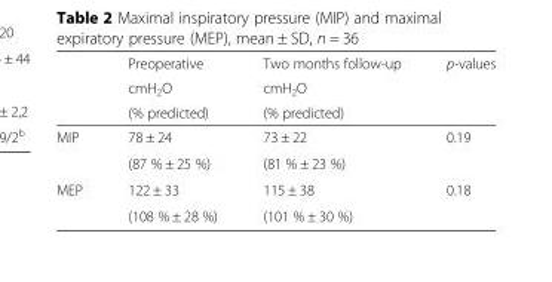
<table><thead><tr><td rowspan="3"></td><td rowspan="3">Preoperative cmH<sub>2</sub>O (% predicted)</td><td rowspan="3">Two months follow-up cmH<sub>2</sub>O (% predicted)</td><td rowspan="3">p-values</td></tr><tr></tr><tr></tr></thead><tbody><tr><td rowspan="2">MIP</td><td>78 ± 24</td><td>73 ± 22</td><td rowspan="2">0.19</td></tr><tr><td>(87 % ± 25 %)</td><td>(81 % ± 23 %)</td></tr><tr><td rowspan="2">MEP</td><td>122 ± 33</td><td>115 ± 38</td><td rowspan="2">0.18</td></tr><tr><td>(108 % ± 28 %)</td><td>(101 % ± 30 %)</td></tr></tbody></table>